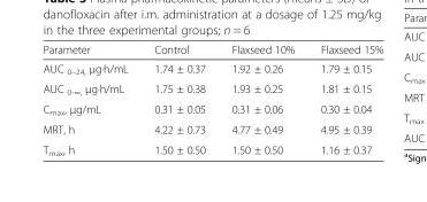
<table><thead><tr><td>Parameter</td><td>Control</td><td>Flaxseed 10%</td><td>Flaxseed 15%</td></tr></thead><tbody><tr><td>AUC <sub>0–24,</sub> μg·h/mL</td><td>1.74 ± 0.37</td><td>1.92 ± 0.26</td><td>1.79 ± 0.15</td></tr><tr><td>AUC <sub>0-∞,</sub> μg·h/mL</td><td>1.75 ± 0.38</td><td>1.93 ± 0.25</td><td>1.81 ± 0.15</td></tr><tr><td>C<sub>max</sub>, μg/mL</td><td>0.31 ± 0.05</td><td>0.31 ± 0.06</td><td>0.30 ± 0.04</td></tr><tr><td>MRT, h</td><td>4.22 ± 0.73</td><td>4.77 ± 0.49</td><td>4.95 ± 0.39</td></tr><tr><td>T<sub>max</sub>, h</td><td>1.50 ± 0.50</td><td>1.50 ± 0.50</td><td>1.16 ± 0.37</td></tr></tbody></table>